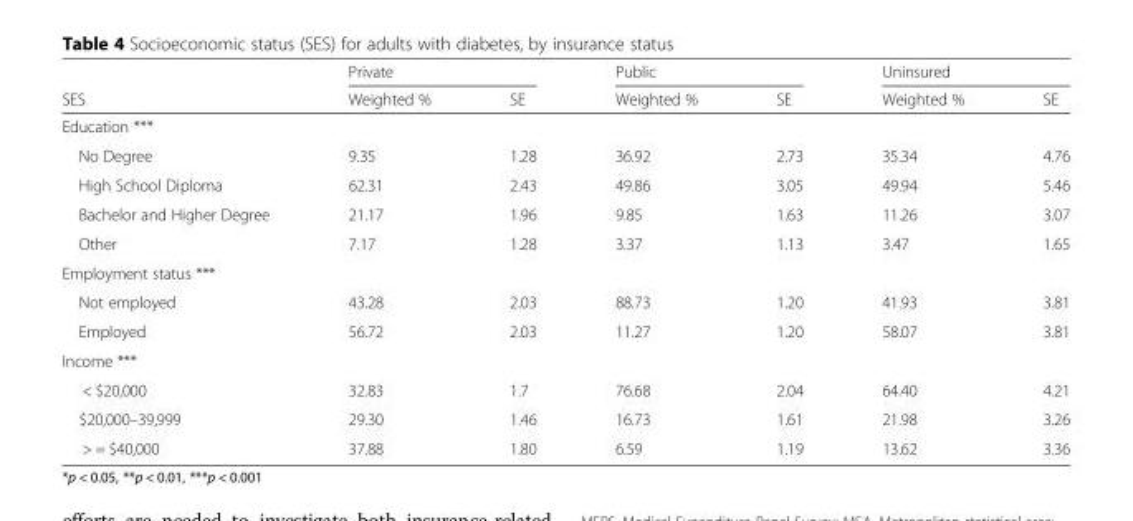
<table><thead><tr><td rowspan="2">SES</td><td colspan="2">Private</td><td colspan="2">Public</td><td colspan="2">Uninsured</td></tr><tr><td>Weighted %</td><td>SE</td><td>Weighted %</td><td>SE</td><td>Weighted %</td><td>SE</td></tr></thead><tbody><tr><td colspan="7">Education ***</td></tr><tr><td>No Degree</td><td>9.35</td><td>1.28</td><td>36.92</td><td>2.73</td><td>35.34</td><td>4.76</td></tr><tr><td>High School Diploma</td><td>62.31</td><td>2.43</td><td>49.86</td><td>3.05</td><td>49.94</td><td>5.46</td></tr><tr><td>Bachelor and Higher Degree</td><td>21.17</td><td>1.96</td><td>9.85</td><td>1.63</td><td>11.26</td><td>3.07</td></tr><tr><td>Other</td><td>7.17</td><td>1.28</td><td>3.37</td><td>1.13</td><td>3.47</td><td>1.65</td></tr><tr><td colspan="7">Employment status ***</td></tr><tr><td>Not employed</td><td>43.28</td><td>2.03</td><td>88.73</td><td>1.20</td><td>41.93</td><td>3.81</td></tr><tr><td>Employed</td><td>56.72</td><td>2.03</td><td>11.27</td><td>1.20</td><td>58.07</td><td>3.81</td></tr><tr><td colspan="7">Income ***</td></tr><tr><td>&lt; $20,000</td><td>32.83</td><td>1.7</td><td>76.68</td><td>2.04</td><td>64.40</td><td>4.21</td></tr><tr><td>$20,000–39,999</td><td>29.30</td><td>1.46</td><td>16.73</td><td>1.61</td><td>21.98</td><td>3.26</td></tr><tr><td>&gt; = $40,000</td><td>37.88</td><td>1.80</td><td>6.59</td><td>1.19</td><td>13.62</td><td>3.36</td></tr></tbody></table>